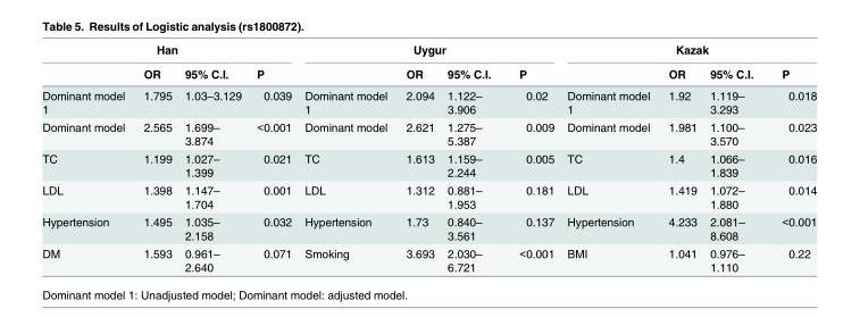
<table><thead><tr><td colspan="4">Han</td><td colspan="4">Uygur</td><td colspan="4">Kazak</td></tr><tr><td></td><td>OR</td><td>95% C.I.</td><td>P</td><td></td><td>OR</td><td>95% C.I.</td><td>P</td><td></td><td>OR</td><td>95% C.I.</td><td>P</td></tr></thead><tbody><tr><td>Dominant model 1</td><td>1.795</td><td>1.03–3.129</td><td>0.039</td><td>Dominant model 1</td><td>2.094</td><td>1.122– 3.906</td><td>0.02</td><td>Dominant model 1</td><td>1.92</td><td>1.119– 3.293</td><td>0.018</td></tr><tr><td>Dominant model</td><td>2.565</td><td>1.699– 3.874</td><td>&lt;0.001</td><td>Dominant model</td><td>2.621</td><td>1.275– 5.387</td><td>0.009</td><td>Dominant model</td><td>1.981</td><td>1.100– 3.570</td><td>0.023</td></tr><tr><td>TC</td><td>1.199</td><td>1.027– 1.399</td><td>0.021</td><td>TC</td><td>1.613</td><td>1.159– 2.244</td><td>0.005</td><td>TC</td><td>1.4</td><td>1.066– 1.839</td><td>0.016</td></tr><tr><td>LDL</td><td>1.398</td><td>1.147– 1.704</td><td>0.001</td><td>LDL</td><td>1.312</td><td>0.881– 1.953</td><td>0.181</td><td>LDL</td><td>1.419</td><td>1.072– 1.880</td><td>0.014</td></tr><tr><td>Hypertension</td><td>1.495</td><td>1.035– 2.158</td><td>0.032</td><td>Hypertension</td><td>1.73</td><td>0.840– 3.561</td><td>0.137</td><td>Hypertension</td><td>4.233</td><td>2.081– 8.608</td><td>&lt;0.001</td></tr><tr><td>DM</td><td>1.593</td><td>0.961– 2.640</td><td>0.071</td><td>Smoking</td><td>3.693</td><td>2.030– 6.721</td><td>&lt;0.001</td><td>BMI</td><td>1.041</td><td>0.976– 1.110</td><td>0.22</td></tr></tbody></table>